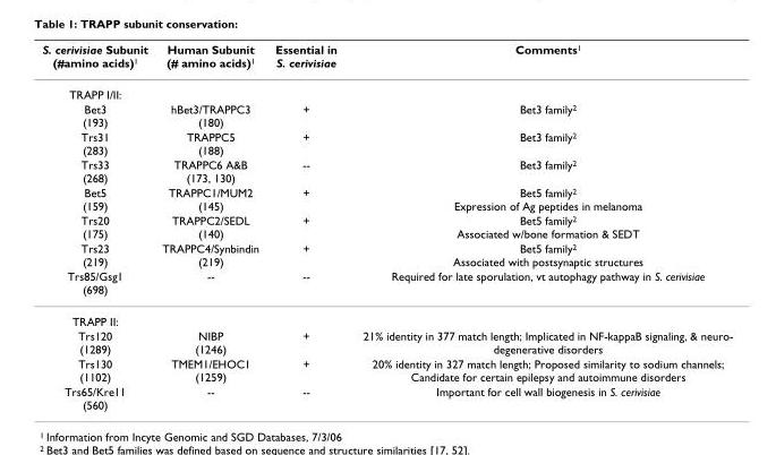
<table><thead><tr><td>S. cerivisiae Subunit (#amino acids)<sup>1</sup></td><td>Human Subunit (# amino acids)<sup>1</sup></td><td>Essential in S. cerivisiae</td><td>Comments<sup>1</sup></td></tr></thead><tbody><tr><td colspan="4">TRAPP I/II:</td></tr><tr><td>Bet3 (193)</td><td>hBet3/TRAPPC3 (180)</td><td>+</td><td>Bet3 family<sup>2</sup></td></tr><tr><td>Trs31 (283)</td><td>TRAPPC5 (188)</td><td>+</td><td>Bet3 family<sup>2</sup></td></tr><tr><td>Trs33 (268)</td><td>TRAPPC6 A&amp;B (173, 130)</td><td>--</td><td>Bet3 family<sup>2</sup></td></tr><tr><td>Bet5 (159)</td><td>TRAPPC1/MUM2 (145)</td><td>+</td><td>Bet5 family<sup>2</sup> Expression of Ag peptides in melanoma</td></tr><tr><td>Trs20 (175)</td><td>TRAPPC2/SEDL (140)</td><td>+</td><td>Bet5 family<sup>2</sup> Associated w/bone formation &amp; SEDT</td></tr><tr><td>Trs23 (219)</td><td>TRAPPC4/Synbindin (219)</td><td>+</td><td>Bet5 family<sup>2</sup> Associated with postsynaptic structures</td></tr><tr><td>Trs85/Gsg1 (698)</td><td>--</td><td>--</td><td>Required for late sporulation, vt autophagy pathway in S. cerivisiae</td></tr><tr><td colspan="4">TRAPP II:</td></tr><tr><td>Trs120 (1289)</td><td>NIBP (1246)</td><td>+</td><td>21% identity in 377 match length; Implicated in NF-kappaB signaling, &amp; neuro- degenerative disorders</td></tr><tr><td>Trs130 (1102)</td><td>TMEM1/EHOC1 (1259)</td><td>+</td><td>20% identity in 327 match length; Proposed similarity to sodium channels; Candidate for certain epilepsy and autoimmune disorders</td></tr><tr><td>Trs65/Kre11 (560)</td><td>--</td><td>--</td><td>Important for cell wall biogenesis in S. cerivisiae</td></tr></tbody></table>